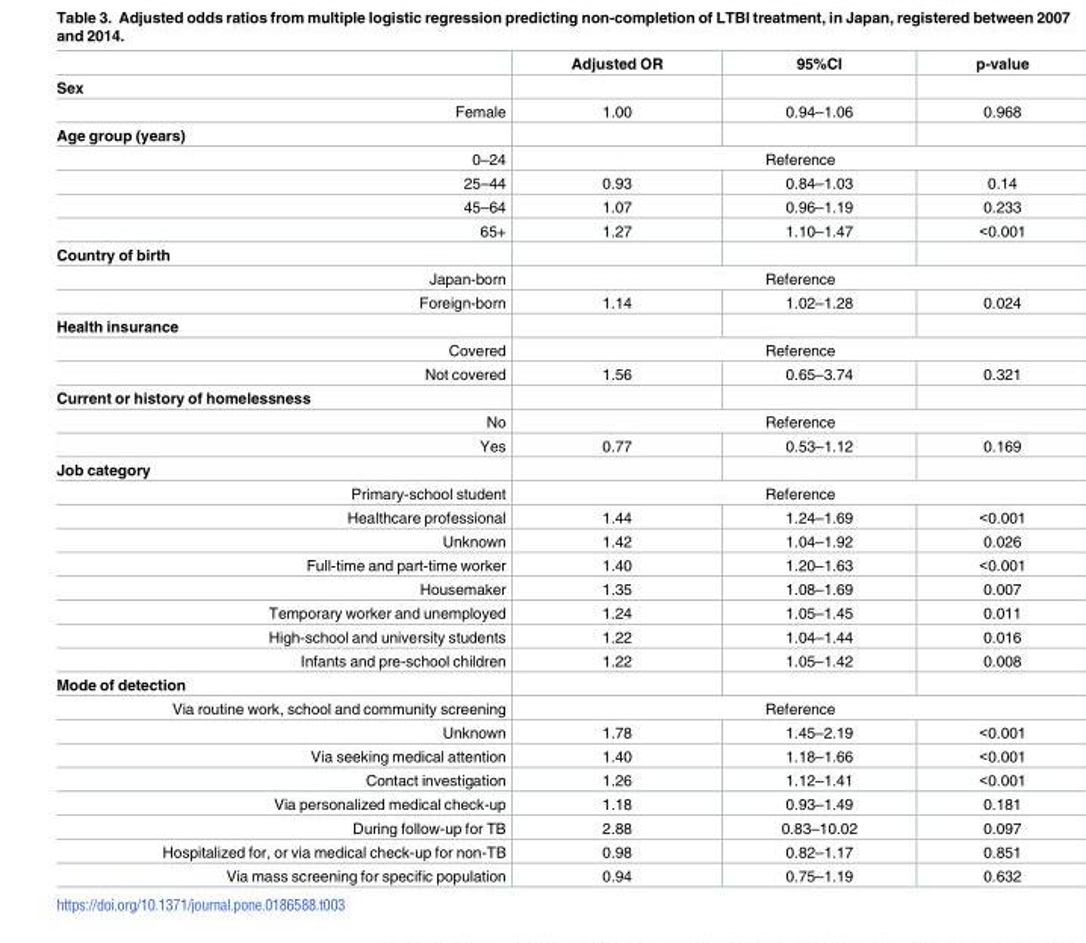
<table><thead><tr><td rowspan="2">Sex</td><td rowspan="2">Adjusted OR</td><td rowspan="2">95%CI</td><td rowspan="2">p-value</td></tr><tr></tr></thead><tbody><tr><td>Female</td><td>1.00</td><td>0.94–1.06</td><td>0.968</td></tr><tr><td colspan="4">Age group (years)</td></tr><tr><td>0–24</td><td colspan="3">Reference</td></tr><tr><td>25–44</td><td>0.93</td><td>0.84–1.03</td><td>0.14</td></tr><tr><td>45–64</td><td>1.07</td><td>0.96–1.19</td><td>0.233</td></tr><tr><td>65+</td><td>1.27</td><td>1.10–1.47</td><td>&lt;0.001</td></tr><tr><td colspan="4">Country of birth</td></tr><tr><td>Japan-born</td><td colspan="3">Reference</td></tr><tr><td>Foreign-born</td><td>1.14</td><td>1.02–1.28</td><td>0.024</td></tr><tr><td colspan="4">Health insurance</td></tr><tr><td>Covered</td><td colspan="3">Reference</td></tr><tr><td>Not covered</td><td>1.56</td><td>0.65–3.74</td><td>0.321</td></tr><tr><td colspan="4">Current or history of homelessness</td></tr><tr><td>No</td><td colspan="3">Reference</td></tr><tr><td>Yes</td><td>0.77</td><td>0.53–1.12</td><td>0.169</td></tr><tr><td colspan="4">Job category</td></tr><tr><td>Primary-school student</td><td colspan="3">Reference</td></tr><tr><td>Healthcare professional</td><td>1.44</td><td>1.24–1.69</td><td>&lt;0.001</td></tr><tr><td>Unknown</td><td>1.42</td><td>1.04–1.92</td><td>0.026</td></tr><tr><td>Full-time and part-time worker</td><td>1.40</td><td>1.20–1.63</td><td>&lt;0.001</td></tr><tr><td>Housemaker</td><td>1.35</td><td>1.08–1.69</td><td>0.007</td></tr><tr><td>Temporary worker and unemployed</td><td>1.24</td><td>1.05–1.45</td><td>0.011</td></tr><tr><td>High-school and university students</td><td>1.22</td><td>1.04–1.44</td><td>0.016</td></tr><tr><td>Infants and pre-school children</td><td>1.22</td><td>1.05–1.42</td><td>0.008</td></tr><tr><td colspan="4">Mode of detection</td></tr><tr><td>Via routine work, school and community screening</td><td colspan="3">Reference</td></tr><tr><td>Unknown</td><td>1.78</td><td>1.45–2.19</td><td>&lt;0.001</td></tr><tr><td>Via seeking medical attention</td><td>1.40</td><td>1.18–1.66</td><td>&lt;0.001</td></tr><tr><td>Contact investigation</td><td>1.26</td><td>1.12–1.41</td><td>&lt;0.001</td></tr><tr><td>Via personalized medical check-up</td><td>1.18</td><td>0.93–1.49</td><td>0.181</td></tr><tr><td>During follow-up for TB</td><td>2.88</td><td>0.83–10.02</td><td>0.097</td></tr><tr><td>Hospitalized for, or via medical check-up for non-TB</td><td>0.98</td><td>0.82–1.17</td><td>0.851</td></tr><tr><td>Via mass screening for specific population</td><td>0.94</td><td>0.75–1.19</td><td>0.632</td></tr></tbody></table>